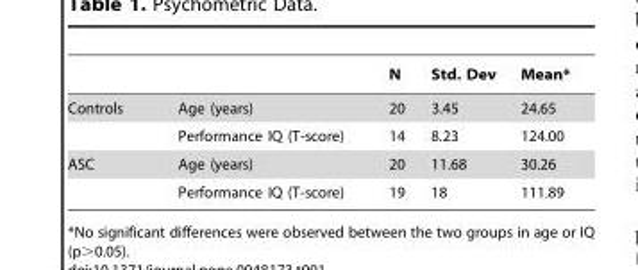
<table><thead><tr><td></td><td></td><td>N</td><td>Std. Dev</td><td>Mean*</td></tr></thead><tbody><tr><td rowspan="2">Controls</td><td>Age (years)</td><td>20</td><td>3.45</td><td>24.65</td></tr><tr><td>Performance IQ (T-score)</td><td>14</td><td>8.23</td><td>124.00</td></tr><tr><td rowspan="2">ASC</td><td>Age (years)</td><td>20</td><td>11.68</td><td>30.26</td></tr><tr><td>Performance IQ (T-score)</td><td>19</td><td>18</td><td>111.89</td></tr></tbody></table>